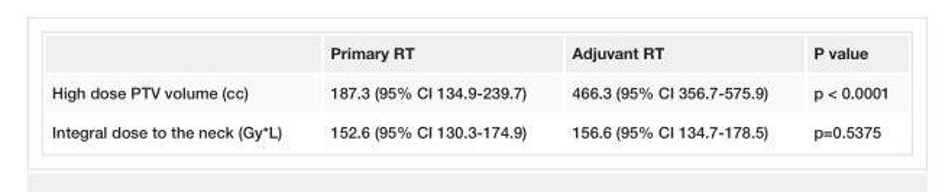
<table><thead><tr><td></td><td>Primary RT</td><td>Adjuvant RT</td><td>P value</td></tr></thead><tbody><tr><td>High dose PTV volume (cc)</td><td>187.3 (95% CI 134.9-239.7)</td><td>466.3 (95% CI 356.7-575.9)</td><td>p &lt; 0.0001</td></tr><tr><td>Integral dose to the neck (Gy*L)</td><td>152.6 (95% CI 130.3-174.9)</td><td>156.6 (95% CI 134.7-178.5)</td><td>p=0.5375</td></tr></tbody></table>